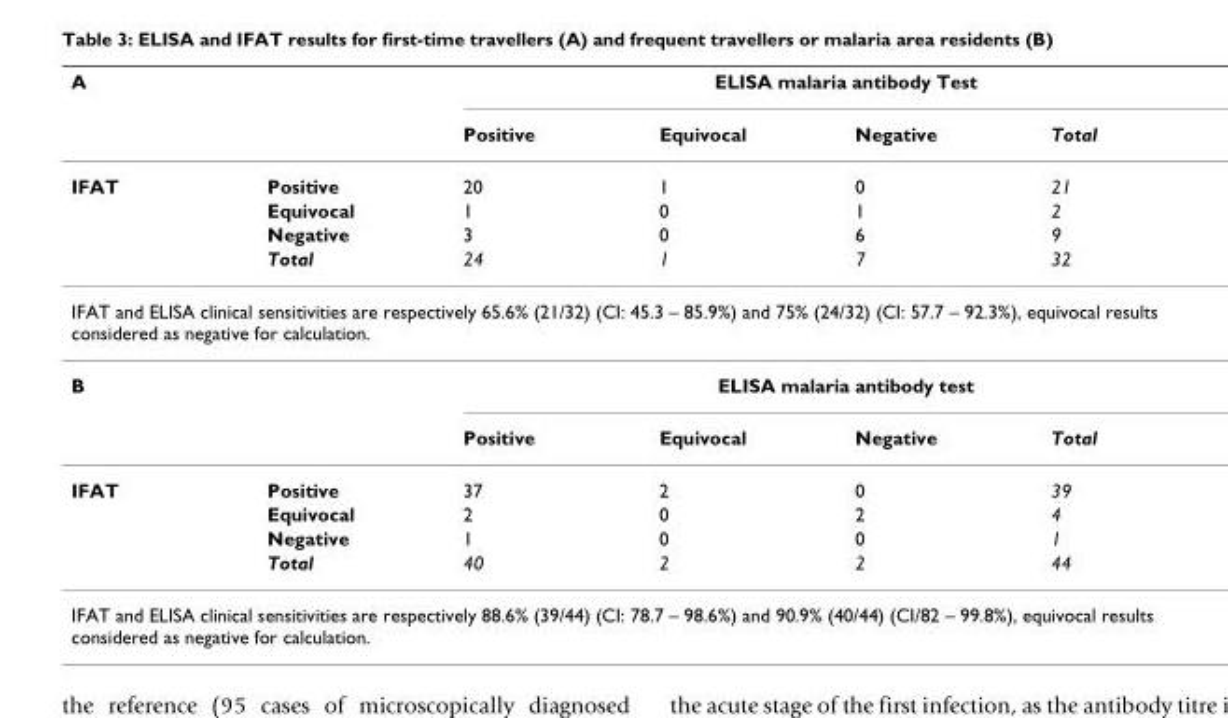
<table><thead><tr><td rowspan="2">A</td><td rowspan="2"></td><td colspan="4">ELISA malaria antibody Test</td></tr><tr><td>Positive</td><td>Equivocal</td><td>Negative</td><td>Total</td></tr></thead><tbody><tr><td rowspan="4">IFAT</td><td>Positive</td><td>20</td><td>1</td><td>0</td><td>21</td></tr><tr><td>Equivocal</td><td>1</td><td>0</td><td>1</td><td>2</td></tr><tr><td>Negative</td><td>3</td><td>0</td><td>6</td><td>9</td></tr><tr><td>Total</td><td>24</td><td>1</td><td>7</td><td>32</td></tr><tr><td colspan="6">IFAT and ELISA clinical sensitivities are respectively 65.6% (21/32) (CI: 45.3 – 85.9%) and 75% (24/32) (CI: 57.7 – 92.3%), equivocal results considered as negative for calculation.</td></tr><tr><td rowspan="2">B</td><td></td><td colspan="4">ELISA malaria antibody test</td></tr><tr><td></td><td>Positive</td><td>Equivocal</td><td>Negative</td><td>Total</td></tr><tr><td rowspan="4">IFAT</td><td>Positive</td><td>37</td><td>2</td><td>0</td><td>39</td></tr><tr><td>Equivocal</td><td>2</td><td>0</td><td>2</td><td>4</td></tr><tr><td>Negative</td><td>1</td><td>0</td><td>0</td><td>1</td></tr><tr><td>Total</td><td>40</td><td>2</td><td>2</td><td>44</td></tr><tr><td colspan="6">IFAT and ELISA clinical sensitivities are respectively 88.6% (39/44) (CI: 78.7 – 98.6%) and 90.9% (40/44) (CI/82 – 99.8%), equivocal results considered as negative for calculation.</td></tr></tbody></table>